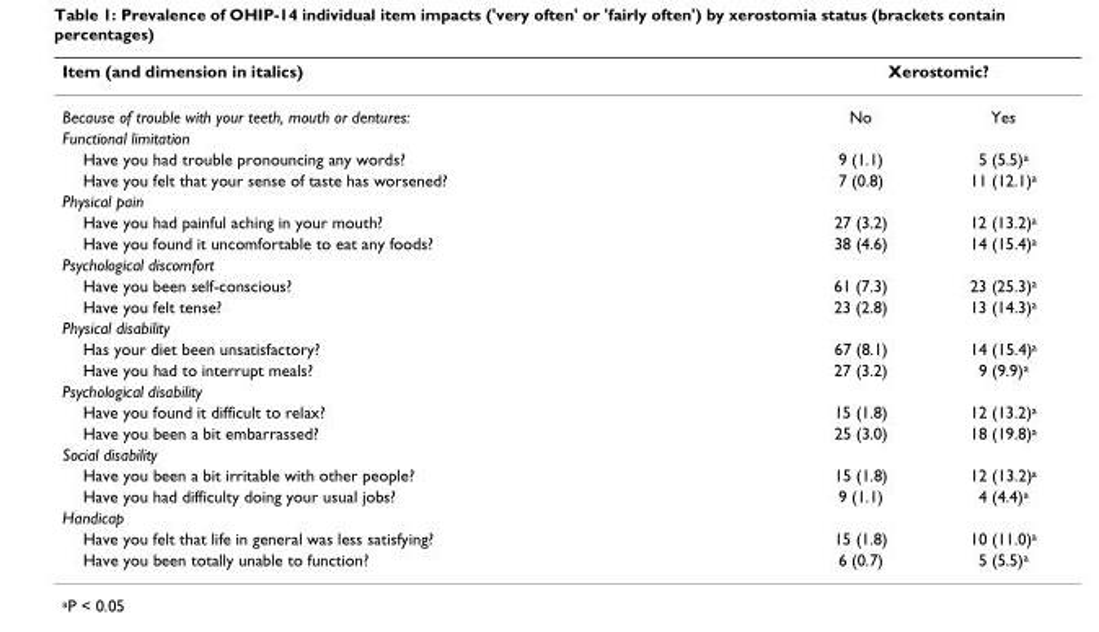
<table><thead><tr><td rowspan="2">Item (and dimension in italics) Because of trouble with your teeth, mouth or dentures:</td><td colspan="2">Xerostomic?</td></tr><tr><td>No</td><td>Yes</td></tr></thead><tbody><tr><td colspan="3">Functional limitation</td></tr><tr><td>Have you had trouble pronouncing any words?</td><td>9 (1.1)</td><td>5 (5.5)<sup>a</sup></td></tr><tr><td>Have you felt that your sense of taste has worsened?</td><td>7 (0.8)</td><td>11 (12.1)<sup>a</sup></td></tr><tr><td colspan="3">Physical pain</td></tr><tr><td>Have you had painful aching in your mouth?</td><td>27 (3.2)</td><td>12 (13.2)<sup>a</sup></td></tr><tr><td>Have you found it uncomfortable to eat any foods?</td><td>38 (4.6)</td><td>14 (15.4)<sup>a</sup></td></tr><tr><td colspan="3">Psychological discomfort</td></tr><tr><td>Have you been self-conscious?</td><td>61 (7.3)</td><td>23 (25.3)<sup>a</sup></td></tr><tr><td>Have you felt tense?</td><td>23 (2.8)</td><td>13 (14.3)<sup>a</sup></td></tr><tr><td colspan="3">Physical disability</td></tr><tr><td>Has your diet been unsatisfactory?</td><td>67 (8.1)</td><td>14 (15.4)<sup>a</sup></td></tr><tr><td>Have you had to interrupt meals?</td><td>27 (3.2)</td><td>9 (9.9)<sup>a</sup></td></tr><tr><td colspan="3">Psychological disability</td></tr><tr><td>Have you found it difficult to relax?</td><td>15 (1.8)</td><td>12 (13.2)<sup>a</sup></td></tr><tr><td>Have you been a bit embarrassed?</td><td>25 (3.0)</td><td>18 (19.8)<sup>a</sup></td></tr><tr><td colspan="3">Social disability</td></tr><tr><td>Have you been a bit irritable with other people?</td><td>15 (1.8)</td><td>12 (13.2)<sup>a</sup></td></tr><tr><td>Have you had difficulty doing your usual jobs?</td><td>9 (1.1)</td><td>4 (4.4)<sup>a</sup></td></tr><tr><td colspan="3">Handicap</td></tr><tr><td>Have you felt that life in general was less satisfying?</td><td>15 (1.8)</td><td>10 (11.0)<sup>a</sup></td></tr><tr><td>Have you been totally unable to function?</td><td>6 (0.7)</td><td>5 (5.5)<sup>a</sup></td></tr></tbody></table>